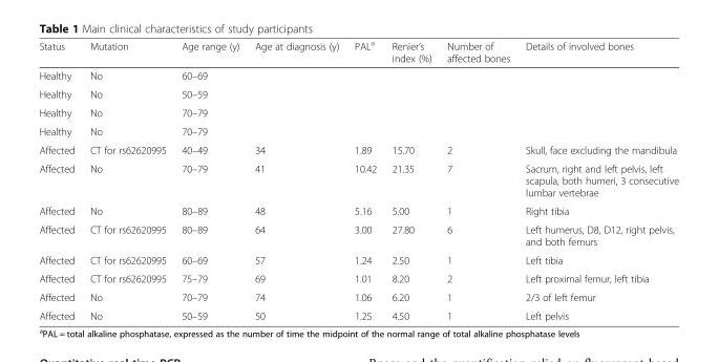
<table><thead><tr><td>Status</td><td>Mutation</td><td>Age range (y)</td><td>Age at diagnosis (y)</td><td>PAL<sup>a</sup></td><td>Renier’s index (%)</td><td>Number of affected bones</td><td>Details of involved bones</td></tr></thead><tbody><tr><td>Healthy</td><td>No</td><td>60–69</td><td></td><td></td><td></td><td></td><td></td></tr><tr><td>Healthy</td><td>No</td><td>50–59</td><td></td><td></td><td></td><td></td><td></td></tr><tr><td>Healthy</td><td>No</td><td>70–79</td><td></td><td></td><td></td><td></td><td></td></tr><tr><td>Healthy</td><td>No</td><td>70–79</td><td></td><td></td><td></td><td></td><td></td></tr><tr><td>Affected</td><td>CT for rs62620995</td><td>40–49</td><td>34</td><td>1.89</td><td>15.70</td><td>2</td><td>Skull, face excluding the mandibula</td></tr><tr><td>Affected</td><td>No</td><td>70–79</td><td>41</td><td>10.42</td><td>21.35</td><td>7</td><td>Sacrum, right and left pelvis, left scapula, both humeri, 3 consecutive lumbar vertebrae</td></tr><tr><td>Affected</td><td>No</td><td>80–89</td><td>48</td><td>5.16</td><td>5.00</td><td>1</td><td>Right tibia</td></tr><tr><td>Affected</td><td>CT for rs62620995</td><td>80–89</td><td>64</td><td>3.00</td><td>27.80</td><td>6</td><td>Left humerus, D8, D12, right pelvis, and both femurs</td></tr><tr><td>Affected</td><td>CT for rs62620995</td><td>60–69</td><td>57</td><td>1.24</td><td>2.50</td><td>1</td><td>Left tibia</td></tr><tr><td>Affected</td><td>CT for rs62620995</td><td>75–79</td><td>69</td><td>1.01</td><td>8.20</td><td>2</td><td>Left proximal femur, left tibia</td></tr><tr><td>Affected</td><td>No</td><td>70–79</td><td>74</td><td>1.06</td><td>6.20</td><td>1</td><td>2/3 of left femur</td></tr><tr><td>Affected</td><td>No</td><td>50–59</td><td>50</td><td>1.25</td><td>4.50</td><td>1</td><td>Left pelvis</td></tr></tbody></table>